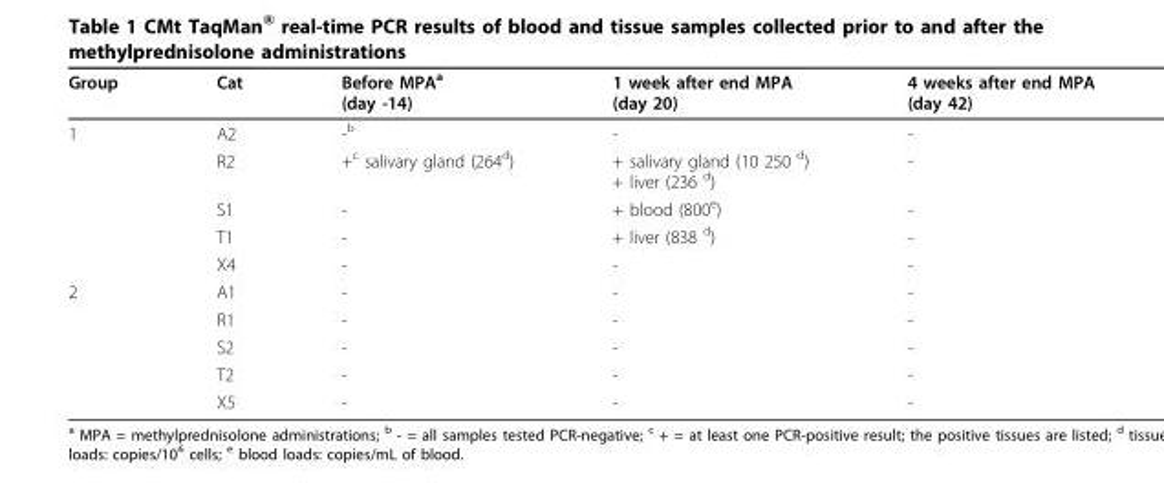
<table><thead><tr><td>Group</td><td>Cat</td><td>Before MPA<sup>a</sup> (day -14)</td><td>1 week after end MPA (day 20)</td><td>4 weeks after end MPA (day 42)</td></tr></thead><tbody><tr><td rowspan="5">1</td><td>A2</td><td>-<sup>b</sup></td><td>-</td><td>-</td></tr><tr><td>R2</td><td>+<sup>c</sup> salivary gland (264<sup>d</sup>)</td><td>+ salivary gland (10 250 <sup>d</sup>) + liver (236 <sup>d</sup>)</td><td>-</td></tr><tr><td>S1</td><td>-</td><td>+ blood (800<sup>e</sup>)</td><td>-</td></tr><tr><td>T1</td><td>-</td><td>+ liver (838 <sup>d</sup>)</td><td>-</td></tr><tr><td>X4</td><td>-</td><td>-</td><td>-</td></tr><tr><td rowspan="5">2</td><td>A1</td><td>-</td><td>-</td><td>-</td></tr><tr><td>R1</td><td>-</td><td>-</td><td>-</td></tr><tr><td>S2</td><td>-</td><td>-</td><td>-</td></tr><tr><td>T2</td><td>-</td><td>-</td><td>-</td></tr><tr><td>X5</td><td>-</td><td>-</td><td>-</td></tr></tbody></table>